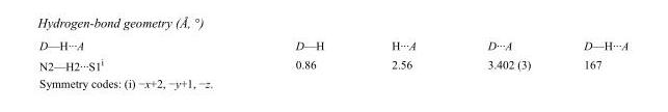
<table><tbody><tr><td>D—H···A</td><td>D—H</td><td>H···A</td><td>D···A</td><td>D—H···A</td></tr><tr><td>N2—H2···S1<sup>i</sup></td><td>0.86</td><td>2.56</td><td>3.402 (3)</td><td>167</td></tr></tbody></table>